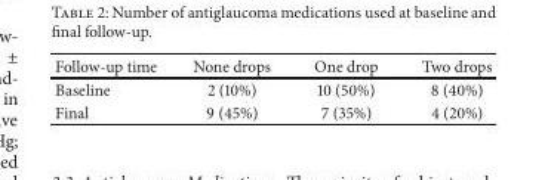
<table><thead><tr><td>Follow-up time</td><td>None drops</td><td>One drop</td><td>Two drops</td></tr></thead><tbody><tr><td>Baseline</td><td>2 (10%)</td><td>10 (50%)</td><td>8 (40%)</td></tr><tr><td>Final</td><td>9 (45%)</td><td>7 (35%)</td><td>4 (20%)</td></tr></tbody></table>